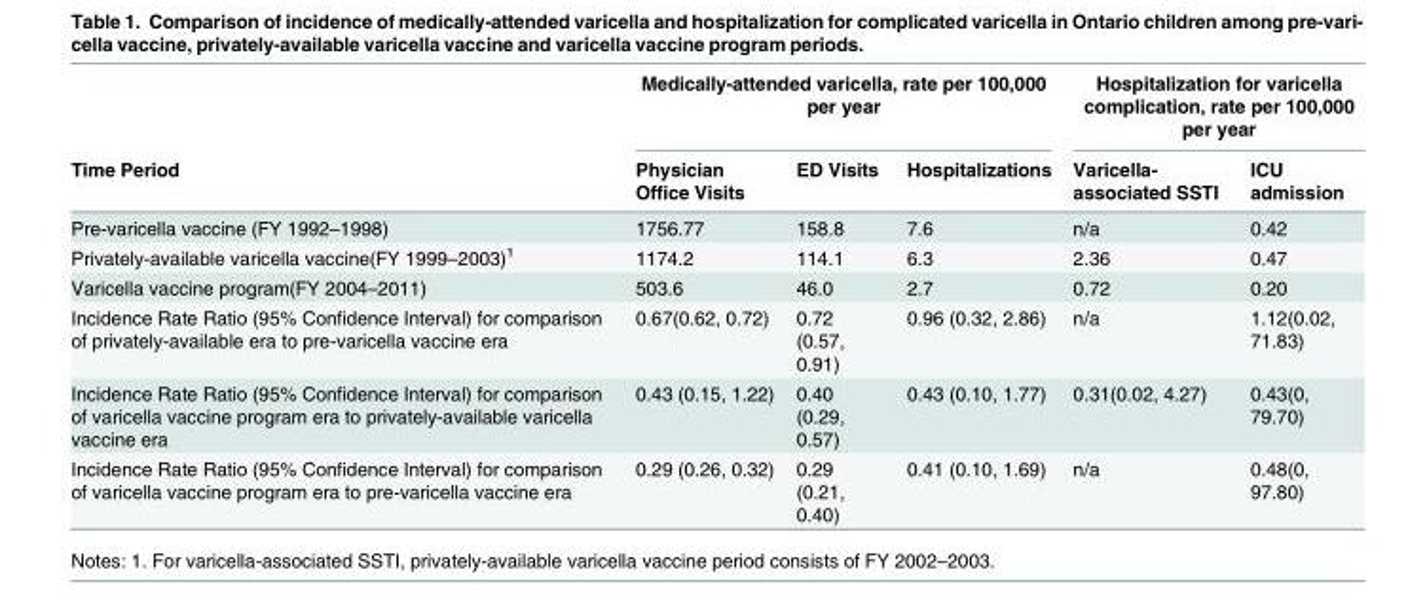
<table><thead><tr><td rowspan="2">Time Period</td><td colspan="3">Medically-attended varicella, rate per 100,000 per year</td><td colspan="2">Hospitalization for varicella complication, rate per 100,000 per year</td></tr><tr><td>Physician Office Visits</td><td>ED Visits</td><td>Hospitalizations</td><td>Varicella- associated SSTI</td><td>ICU admission</td></tr></thead><tbody><tr><td>Pre-varicella vaccine (FY 1992–1998)</td><td>1756.77</td><td>158.8</td><td>7.6</td><td>n/a</td><td>0.42</td></tr><tr><td>Privately-available varicella vaccine(FY 1999–2003)<sup>1</sup></td><td>1174.2</td><td>114.1</td><td>6.3</td><td>2.36</td><td>0.47</td></tr><tr><td>Varicella vaccine program(FY 2004–2011)</td><td>503.6</td><td>46.0</td><td>2.7</td><td>0.72</td><td>0.20</td></tr><tr><td>Incidence Rate Ratio (95% Confidence Interval) for comparison of privately-available era to pre-varicella vaccine era</td><td>0.67(0.62, 0.72)</td><td>0.72 (0.57, 0.91)</td><td>0.96 (0.32, 2.86)</td><td>n/a</td><td>1.12(0.02, 71.83)</td></tr><tr><td>Incidence Rate Ratio (95% Confidence Interval) for comparison of varicella vaccine program era to privately-available varicella vaccine era</td><td>0.43 (0.15, 1.22)</td><td>0.40 (0.29, 0.57)</td><td>0.43 (0.10, 1.77)</td><td>0.31(0.02, 4.27)</td><td>0.43(0, 79.70)</td></tr><tr><td>Incidence Rate Ratio (95% Confidence Interval) for comparison of varicella vaccine program era to pre-varicella vaccine era</td><td>0.29 (0.26, 0.32)</td><td>0.29 (0.21, 0.40)</td><td>0.41 (0.10, 1.69)</td><td>n/a</td><td>0.48(0, 97.80)</td></tr></tbody></table>